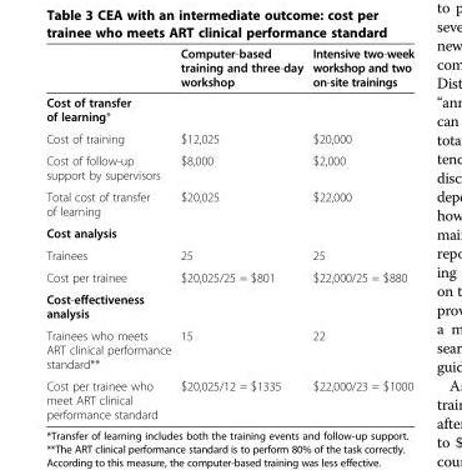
<table><thead><tr><td></td><td>Computer-based training and three-day workshop</td><td>Intensive two-week workshop and two on-site trainings</td></tr></thead><tbody><tr><td colspan="3">Cost of transfer of learning*</td></tr><tr><td>Cost of training</td><td>$12,025</td><td>$20,000</td></tr><tr><td>Cost of follow-up support by supervisors</td><td>$8,000</td><td>$2,000</td></tr><tr><td>Total cost of transfer of learning</td><td>$20,025</td><td>$22,000</td></tr><tr><td colspan="3">Cost analysis</td></tr><tr><td>Trainees</td><td>25</td><td>25</td></tr><tr><td>Cost per trainee</td><td>$20,025/25 = $801</td><td>$22,000/25 = $880</td></tr><tr><td colspan="3">Cost-effectiveness analysis</td></tr><tr><td>Trainees who meets ART clinical performance standard**</td><td>15</td><td>22</td></tr><tr><td>Cost per trainee who meet ART clinical performance standard</td><td>$20,025/12 = $1335</td><td>$22,000/23 = $1000</td></tr></tbody></table>